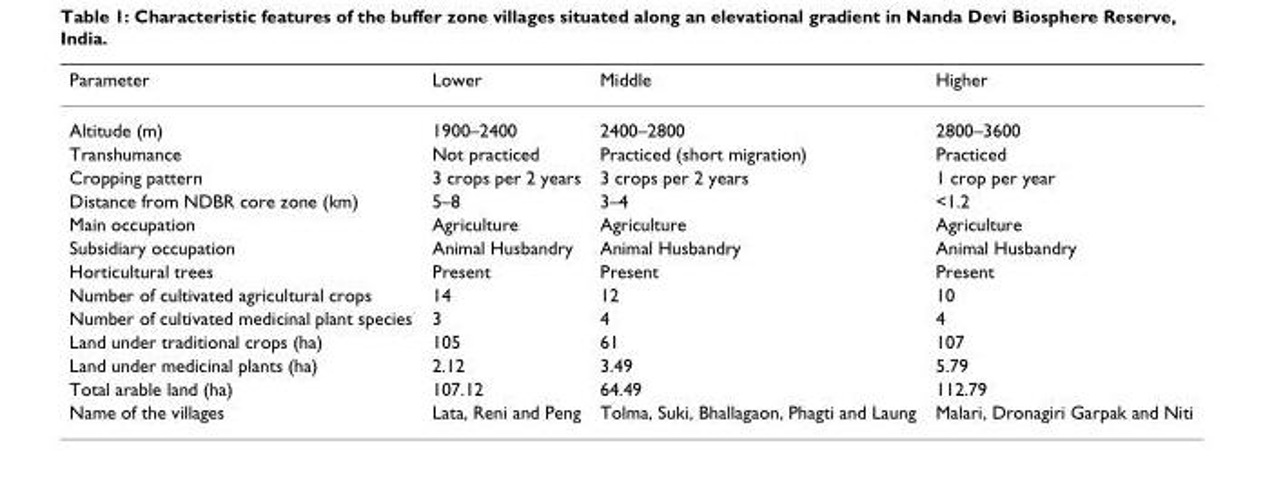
<table><thead><tr><td>Parameter</td><td>Lower</td><td>Middle</td><td>Higher</td></tr></thead><tbody><tr><td>Altitude (m)</td><td>1900–2400</td><td>2400–2800</td><td>2800–3600</td></tr><tr><td>Transhumance</td><td>Not practiced</td><td>Practiced (short migration)</td><td>Practiced</td></tr><tr><td>Cropping pattern</td><td>3 crops per 2 years</td><td>3 crops per 2 years</td><td>1 crop per year</td></tr><tr><td>Distance from NDBR core zone (km)</td><td>5–8</td><td>3–4</td><td>&lt;1.2</td></tr><tr><td>Main occupation</td><td>Agriculture</td><td>Agriculture</td><td>Agriculture</td></tr><tr><td>Subsidiary occupation</td><td>Animal Husbandry</td><td>Animal Husbandry</td><td>Animal Husbandry</td></tr><tr><td>Horticultural trees</td><td>Present</td><td>Present</td><td>Present</td></tr><tr><td>Number of cultivated agricultural crops</td><td>14</td><td>12</td><td>10</td></tr><tr><td>Number of cultivated medicinal plant species</td><td>3</td><td>4</td><td>4</td></tr><tr><td>Land under traditional crops (ha)</td><td>105</td><td>61</td><td>107</td></tr><tr><td>Land under medicinal plants (ha)</td><td>2.12</td><td>3.49</td><td>5.79</td></tr><tr><td>Total arable land (ha)</td><td>107.12</td><td>64.49</td><td>112.79</td></tr><tr><td>Name of the villages</td><td>Lata, Reni and Peng</td><td>Tolma, Suki, Bhallagaon, Phagti and Laung</td><td>Malari, Dronagiri Garpak and Niti</td></tr></tbody></table>